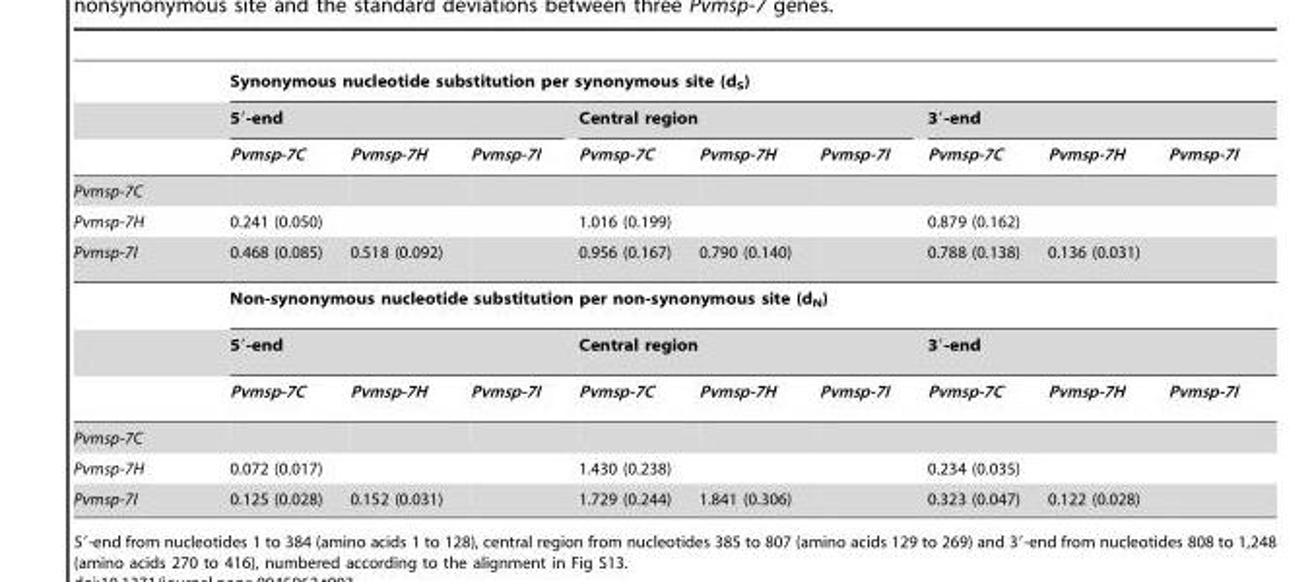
<table><thead><tr><td rowspan="3"></td><td colspan="9">Synonymous nucleotide substitution per synonymous site (d<sub>S</sub>)</td></tr><tr><td colspan="3">5′-end</td><td colspan="3">Central region</td><td colspan="3">3′-end</td></tr><tr><td>Pvmsp-7C</td><td>Pvmsp-7H</td><td>Pvmsp-7I</td><td>Pvmsp-7C</td><td>Pvmsp-7H</td><td>Pvmsp-7I</td><td>Pvmsp-7C</td><td>Pvmsp-7H</td><td>Pvmsp-7I</td></tr></thead><tbody><tr><td colspan="10">Pvmsp-7C</td></tr><tr><td>Pvmsp-7H</td><td>0.241 (0.050)</td><td></td><td></td><td>1.016 (0.199)</td><td></td><td></td><td>0.879 (0.162)</td><td></td><td></td></tr><tr><td rowspan="4">Pvmsp-7I</td><td>0.468 (0.085)</td><td>0.518 (0.092)</td><td></td><td>0.956 (0.167)</td><td>0.790 (0.140)</td><td></td><td>0.788 (0.138)</td><td>0.136 (0.031)</td><td></td></tr><tr><td colspan="9">Non-synonymous nucleotide substitution per non-synonymous site (d<sub>N</sub>)</td></tr><tr><td colspan="3">5′-end</td><td colspan="3">Central region</td><td colspan="3">3′-end</td></tr><tr><td>Pvmsp-7C</td><td>Pvmsp-7H</td><td>Pvmsp-7I</td><td>Pvmsp-7C</td><td>Pvmsp-7H</td><td>Pvmsp-7I</td><td>Pvmsp-7C</td><td>Pvmsp-7H</td><td>Pvmsp-7I</td></tr><tr><td colspan="10">Pvmsp-7C</td></tr><tr><td>Pvmsp-7H</td><td>0.072 (0.017)</td><td></td><td></td><td>1.430 (0.238)</td><td></td><td></td><td>0.234 (0.035)</td><td></td><td></td></tr><tr><td>Pvmsp-7I</td><td>0.125 (0.028)</td><td>0.152 (0.031)</td><td></td><td>1.729 (0.244)</td><td>1.841 (0.306)</td><td></td><td>0.323 (0.047)</td><td>0.122 (0.028)</td><td></td></tr></tbody></table>